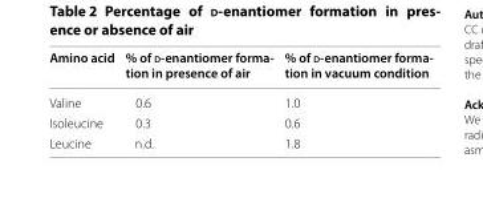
<table><thead><tr><td>Amino acid</td><td>% of d‑enantiomer forma‑ tion in presence of air</td><td>% of d‑enantiomer forma‑ tion in vacuum condition</td></tr></thead><tbody><tr><td>Valine</td><td>0.6</td><td>1.0</td></tr><tr><td>Isoleucine</td><td>0.3</td><td>0.6</td></tr><tr><td>Leucine</td><td>n.d.</td><td>1.8</td></tr></tbody></table>